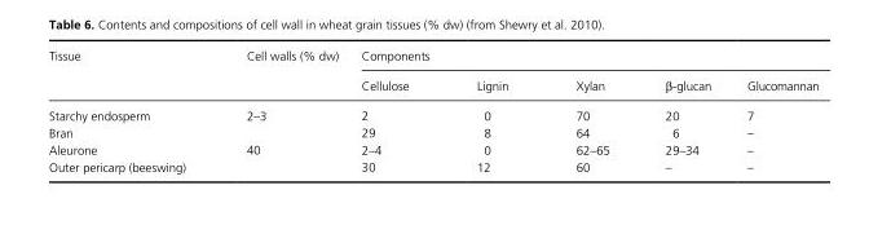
<table><thead><tr><td rowspan="2">Tissue</td><td rowspan="2">Cell walls (% dw)</td><td colspan="5">Components</td></tr><tr><td>Cellulose</td><td>Lignin</td><td>Xylan</td><td>β- glucan</td><td>Glucomannan</td></tr></thead><tbody><tr><td>Starchy endosperm</td><td>2–3</td><td>2</td><td>0</td><td>70</td><td>20</td><td>7</td></tr><tr><td>Bran</td><td></td><td>29</td><td>8</td><td>64</td><td>6</td><td>–</td></tr><tr><td>Aleurone</td><td>40</td><td>2–4</td><td>0</td><td>62–65</td><td>29–34</td><td>–</td></tr><tr><td>Outer pericarp (beeswing)</td><td></td><td>30</td><td>12</td><td>60</td><td>–</td><td>–</td></tr></tbody></table>